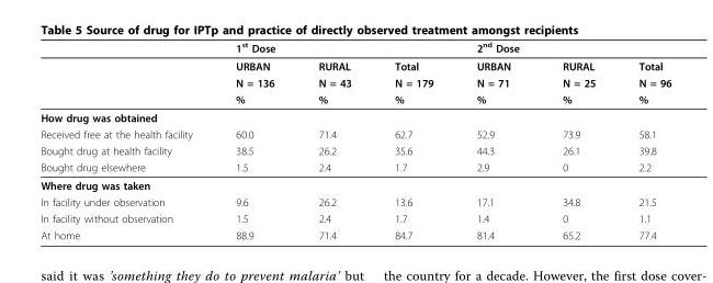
<table><thead><tr><td></td><td>1<sup>st</sup> Dose</td><td></td><td></td><td>2<sup>nd</sup> Dose</td><td></td><td></td></tr></thead><tbody><tr><td></td><td>URBAN</td><td>RURAL</td><td>Total</td><td>URBAN</td><td>RURAL</td><td>Total</td></tr><tr><td></td><td>N = 136</td><td>N = 43</td><td>N = 179</td><td>N = 71</td><td>N = 25</td><td>N = 96</td></tr><tr><td></td><td>%</td><td>%</td><td>%</td><td>%</td><td>%</td><td>%</td></tr><tr><td colspan="7">How drug was obtained</td></tr><tr><td>Received free at the health facility</td><td>60.0</td><td>71.4</td><td>62.7</td><td>52.9</td><td>73.9</td><td>58.1</td></tr><tr><td>Bought drug at health facility</td><td>38.5</td><td>26.2</td><td>35.6</td><td>44.3</td><td>26.1</td><td>39.8</td></tr><tr><td>Bought drug elsewhere</td><td>1.5</td><td>2.4</td><td>1.7</td><td>2.9</td><td>0</td><td>2.2</td></tr><tr><td colspan="7">Where drug was taken</td></tr><tr><td>In facility under observation</td><td>9.6</td><td>26.2</td><td>13.6</td><td>17.1</td><td>34.8</td><td>21.5</td></tr><tr><td>In facility without observation</td><td>1.5</td><td>2.4</td><td>1.7</td><td>1.4</td><td>0</td><td>1.1</td></tr><tr><td>At home</td><td>88.9</td><td>71.4</td><td>84.7</td><td>81.4</td><td>65.2</td><td>77.4</td></tr></tbody></table>